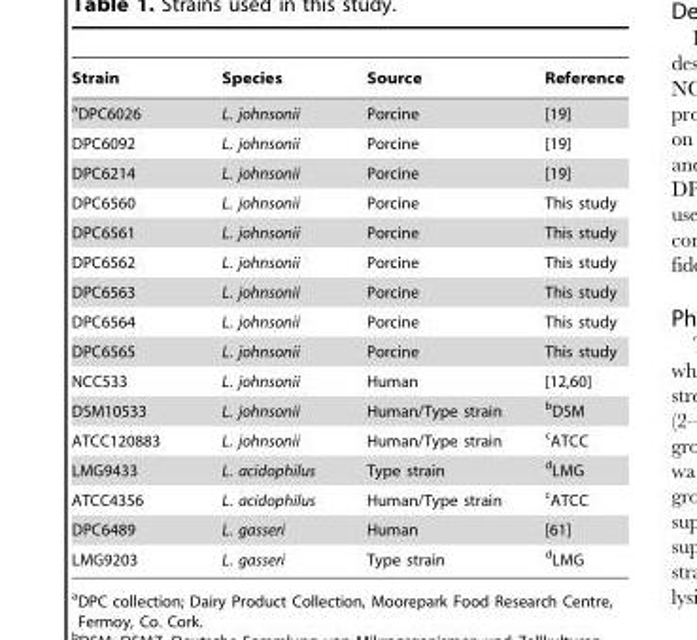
<table><thead><tr><td>Strain</td><td>Species</td><td>Source</td><td>Reference</td></tr></thead><tbody><tr><td>aDPC6026</td><td>L. johnsonii</td><td>Porcine</td><td>[19]</td></tr><tr><td>DPC6092</td><td>L. johnsonii</td><td>Porcine</td><td>[19]</td></tr><tr><td>DPC6214</td><td>L. johnsonii</td><td>Porcine</td><td>[19]</td></tr><tr><td>DPC6560</td><td>L. johnsonii</td><td>Porcine</td><td>This study</td></tr><tr><td>DPC6561</td><td>L. johnsonii</td><td>Porcine</td><td>This study</td></tr><tr><td>DPC6562</td><td>L. johnsonii</td><td>Porcine</td><td>This study</td></tr><tr><td>DPC6563</td><td>L. johnsonii</td><td>Porcine</td><td>This study</td></tr><tr><td>DPC6564</td><td>L. johnsonii</td><td>Porcine</td><td>This study</td></tr><tr><td>DPC6565</td><td>L. johnsonii</td><td>Porcine</td><td>This study</td></tr><tr><td>NCC533</td><td>L. johnsonii</td><td>Human</td><td>[12,60]</td></tr><tr><td>DSM10533</td><td>L. johnsonii</td><td>Human/Type strain</td><td>bDSM</td></tr><tr><td>ATCC120883</td><td>L. johnsonii</td><td>Human/Type strain</td><td>cATCC</td></tr><tr><td>LMG9433</td><td>L. acidophilus</td><td>Type strain</td><td>dLMG</td></tr><tr><td>ATCC4356</td><td>L. acidophilus</td><td>Human/Type strain</td><td>cATCC</td></tr><tr><td>DPC6489</td><td>L. gasseri</td><td>Human</td><td>[61]</td></tr><tr><td>LMG9203</td><td>L. gasseri</td><td>Type strain</td><td>dLMG</td></tr></tbody></table>